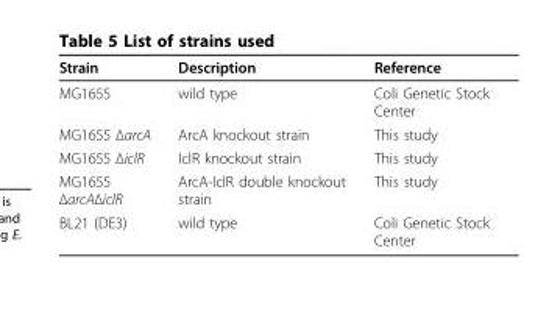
<table><thead><tr><td>Strain</td><td>Description</td><td>Reference</td></tr></thead><tbody><tr><td>MG1655</td><td>wild type</td><td>Coli Genetic Stock Center</td></tr><tr><td>MG1655 ΔarcA</td><td>ArcA knockout strain</td><td>This study</td></tr><tr><td>MG1655 ΔiclR</td><td>IclR knockout strain</td><td>This study</td></tr><tr><td>MG1655 ΔarcAΔiclR</td><td>ArcA-IclR double knockout strain</td><td>This study</td></tr><tr><td>BL21 (DE3)</td><td>wild type</td><td>Coli Genetic Stock Center</td></tr></tbody></table>